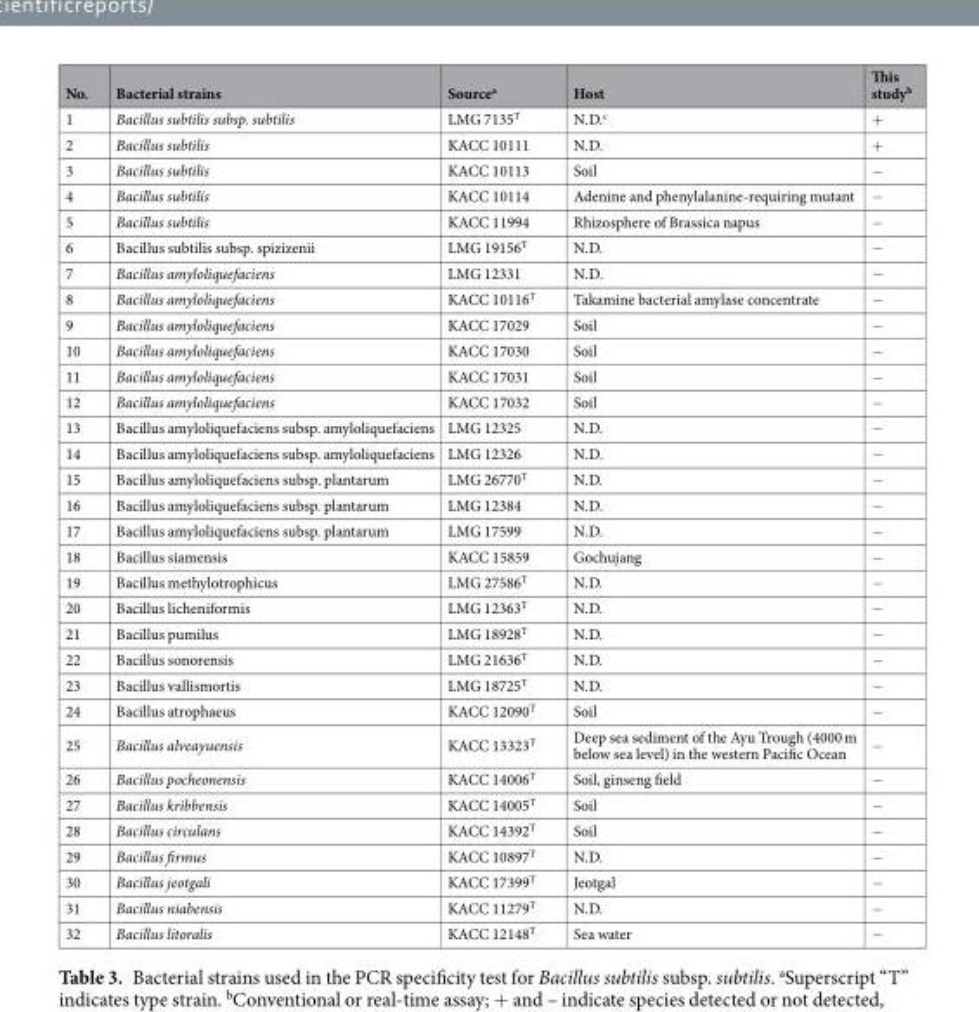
<table><thead><tr><td>No.</td><td>Bacterial strains</td><td>Source<sup>a</sup></td><td>Host</td><td>This study<sup>b</sup></td></tr></thead><tbody><tr><td>1</td><td>Bacillus subtilis subsp. subtilis</td><td>LMG 7135<sup>T</sup></td><td>N.D.<sup>c</sup></td><td>+</td></tr><tr><td>2</td><td>Bacillus subtilis</td><td>KACC 10111</td><td>N.D.</td><td>+</td></tr><tr><td>3</td><td>Bacillus subtilis</td><td>KACC 10113</td><td>Soil</td><td>−</td></tr><tr><td>4</td><td>Bacillus subtilis</td><td>KACC 10114</td><td>Adenine and phenylalanine-requiring mutant</td><td>−</td></tr><tr><td>5</td><td>Bacillus subtilis</td><td>KACC 11994</td><td>Rhizosphere of Brassica napus</td><td>−</td></tr><tr><td>6</td><td>Bacillus subtilis subsp. spizizenii</td><td>LMG 19156<sup>T</sup></td><td>N.D.</td><td>−</td></tr><tr><td>7</td><td>Bacillus amyloliquefaciens</td><td>LMG 12331</td><td>N.D.</td><td>−</td></tr><tr><td>8</td><td>Bacillus amyloliquefaciens</td><td>KACC 10116<sup>T</sup></td><td>Takamine bacterial amylase concentrate</td><td>−</td></tr><tr><td>9</td><td>Bacillus amyloliquefaciens</td><td>KACC 17029</td><td>Soil</td><td>−</td></tr><tr><td>10</td><td>Bacillus amyloliquefaciens</td><td>KACC 17030</td><td>Soil</td><td>−</td></tr><tr><td>11</td><td>Bacillus amyloliquefaciens</td><td>KACC 17031</td><td>Soil</td><td>−</td></tr><tr><td>12</td><td>Bacillus amyloliquefaciens</td><td>KACC 17032</td><td>Soil</td><td>−</td></tr><tr><td>13</td><td>Bacillus amyloliquefaciens subsp. amyloliquefaciens</td><td>LMG 12325</td><td>N.D.</td><td>−</td></tr><tr><td>14</td><td>Bacillus amyloliquefaciens subsp. amyloliquefaciens</td><td>LMG 12326</td><td>N.D.</td><td>−</td></tr><tr><td>15</td><td>Bacillus amyloliquefaciens subsp. plantarum</td><td>LMG 26770<sup>T</sup></td><td>N.D.</td><td>−</td></tr><tr><td>16</td><td>Bacillus amyloliquefaciens subsp. plantarum</td><td>LMG 12384</td><td>N.D.</td><td>−</td></tr><tr><td>17</td><td>Bacillus amyloliquefaciens subsp. plantarum</td><td>LMG 17599</td><td>N.D.</td><td>−</td></tr><tr><td>18</td><td>Bacillus siamensis</td><td>KACC 15859</td><td>Gochujang</td><td>−</td></tr><tr><td>19</td><td>Bacillus methylotrophicus</td><td>LMG 27586<sup>T</sup></td><td>N.D.</td><td>−</td></tr><tr><td>20</td><td>Bacillus licheniformis</td><td>LMG 12363<sup>T</sup></td><td>N.D.</td><td>−</td></tr><tr><td>21</td><td>Bacillus pumilus</td><td>LMG 18928<sup>T</sup></td><td>N.D.</td><td>−</td></tr><tr><td>22</td><td>Bacillus sonorensis</td><td>LMG 21636<sup>T</sup></td><td>N.D.</td><td>−</td></tr><tr><td>23</td><td>Bacillus vallismortis</td><td>LMG 18725<sup>T</sup></td><td>N.D.</td><td>−</td></tr><tr><td>24</td><td>Bacillus atrophaeus</td><td>KACC 12090<sup>T</sup></td><td>Soil</td><td>−</td></tr><tr><td>25</td><td>Bacillus alveayuensis</td><td>KACC 13323<sup>T</sup></td><td>Deep sea sediment of the Ayu Trough (4000 m below sea level) in the western Pacific Ocean</td><td>−</td></tr><tr><td>26</td><td>Bacillus pocheonensis</td><td>KACC 14006<sup>T</sup></td><td>Soil, ginseng field</td><td>−</td></tr><tr><td>27</td><td>Bacillus kribbensis</td><td>KACC 14005<sup>T</sup></td><td>Soil</td><td>−</td></tr><tr><td>28</td><td>Bacillus circulans</td><td>KACC 14392<sup>T</sup></td><td>Soil</td><td>−</td></tr><tr><td>29</td><td>Bacillus firmus</td><td>KACC 10897<sup>T</sup></td><td>N.D.</td><td>−</td></tr><tr><td>30</td><td>Bacillus jeotgali</td><td>KACC 17399<sup>T</sup></td><td>Jeotgal</td><td>−</td></tr><tr><td>31</td><td>Bacillus niabensis</td><td>KACC 11279<sup>T</sup></td><td>N.D.</td><td>−</td></tr><tr><td>32</td><td>Bacillus litoralis</td><td>KACC 12148<sup>T</sup></td><td>Sea water</td><td>−</td></tr></tbody></table>